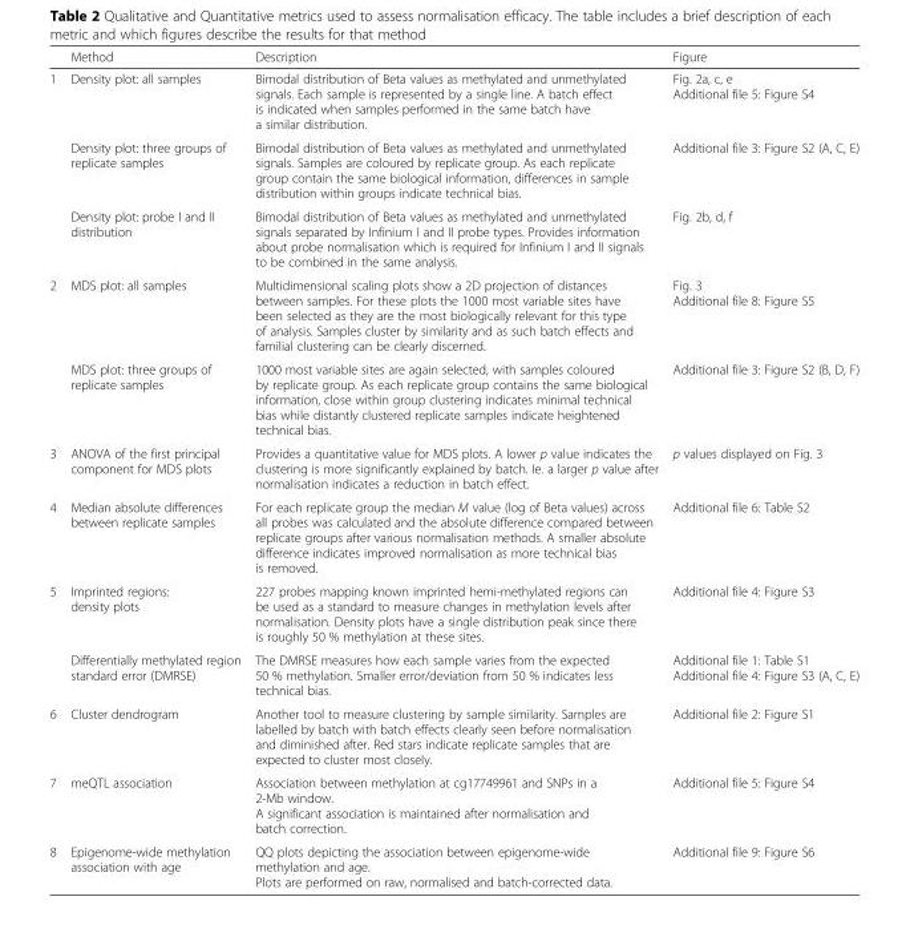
<table><thead><tr><td></td><td>Method</td><td>Description</td><td>Figure</td></tr></thead><tbody><tr><td rowspan="3">1</td><td>Density plot: all samples</td><td>Bimodal distribution of Beta values as methylated and unmethylated signals. Each sample is represented by a single line. A batch effect is indicated when samples performed in the same batch have a similar distribution.</td><td>Fig. 2a, c, e Additional file 5: Figure S4</td></tr><tr><td>Density plot: three groups of replicate samples</td><td>Bimodal distribution of Beta values as methylated and unmethylated signals. Samples are coloured by replicate group. As each replicate group contain the same biological information, differences in sample distribution within groups indicate technical bias.</td><td>Additional file 3: Figure S2 (A, C, E)</td></tr><tr><td>Density plot: probe I and II distribution</td><td>Bimodal distribution of Beta values as methylated and unmethylated signals separated by Infinium I and II probe types. Provides information about probe normalisation which is required for Infinium I and II signals to be combined in the same analysis.</td><td>Fig. 2b, d, f</td></tr><tr><td rowspan="2">2</td><td>MDS plot: all samples</td><td>Multidimensional scaling plots show a 2D projection of distances between samples. For these plots the 1000 most variable sites have been selected as they are the most biologically relevant for this type of analysis. Samples cluster by similarity and as such batch effects and familial clustering can be clearly discerned.</td><td>Fig. 3 Additional file 8: Figure S5</td></tr><tr><td>MDS plot: three groups of replicate samples</td><td>1000 most variable sites are again selected, with samples coloured by replicate group. As each replicate group contains the same biological information, close within group clustering indicates minimal technical bias while distantly clustered replicate samples indicate heightened technical bias.</td><td>Additional file 3: Figure S2 (B, D, F)</td></tr><tr><td>3</td><td>ANOVA of the first principal component for MDS plots</td><td>Provides a quantitative value for MDS plots. A lower p value indicates the clustering is more significantly explained by batch. Ie. a larger p value after normalisation indicates a reduction in batch effect.</td><td>p values displayed on Fig. 3</td></tr><tr><td>4</td><td>Median absolute differences between replicate samples</td><td>For each replicate group the median M value (log of Beta values) across all probes was calculated and the absolute difference compared between replicate groups after various normalisation methods. A smaller absolute difference indicates improved normalisation as more technical bias is removed.</td><td>Additional file 6: Table S2</td></tr><tr><td rowspan="2">5</td><td>Imprinted regions: density plots</td><td>227 probes mapping known imprinted hemi-methylated regions can be used as a standard to measure changes in methylation levels after normalisation. Density plots have a single distribution peak since there is roughly 50 % methylation at these sites.</td><td>Additional file 4: Figure S3</td></tr><tr><td>Differentially methylated region standard error (DMRSE)</td><td>The DMRSE measures how each sample varies from the expected 50 % methylation. Smaller error/deviation from 50 % indicates less technical bias.</td><td>Additional file 1: Table S1 Additional file 4: Figure S3 (A, C, E)</td></tr><tr><td>6</td><td>Cluster dendrogram</td><td>Another tool to measure clustering by sample similarity. Samples are labelled by batch with batch effects clearly seen before normalisation and diminished after. Red stars indicate replicate samples that are expected to cluster most closely.</td><td>Additional file 2: Figure S1</td></tr><tr><td>7</td><td>meQTL association</td><td>Association between methylation at cg17749961 and SNPs in a 2-Mb window. A significant association is maintained after normalisation and batch correction.</td><td>Additional file 5: Figure S4</td></tr><tr><td>8</td><td>Epigenome-wide methylation association with age</td><td>QQ plots depicting the association between epigenome-wide methylation and age. Plots are performed on raw, normalised and batch-corrected data.</td><td>Additional file 9: Figure S6</td></tr></tbody></table>